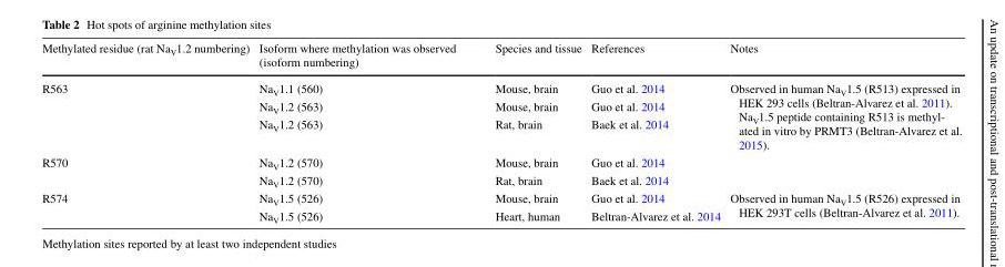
<table><thead><tr><td>Methylated residue (rat Na<sub>V</sub>1.2 numbering)</td><td>Isoform where methylation was observed (isoform numbering)</td><td>Species and tissue</td><td>References</td><td>Notes</td></tr></thead><tbody><tr><td rowspan="3">R563</td><td>Na<sub>V</sub>1.1 (560)</td><td>Mouse, brain</td><td>Guo et al. 2014</td><td rowspan="3">Observed in human NaV1.5 (R513) expressed in HEK 293 cells (Beltran-Alvarez et al. 2011). NaV1.5 peptide containing R513 is methyl- ated in vitro by PRMT3 (Beltran-Alvarez et al. 2015).</td></tr><tr><td>Na<sub>V</sub>1.2 (563)</td><td>Mouse, brain</td><td>Guo et al. 2014</td></tr><tr><td>Na<sub>V</sub>1.2 (563)</td><td>Rat, brain</td><td>Baek et al. 2014</td></tr><tr><td rowspan="2">R570</td><td>Na<sub>V</sub>1.2 (570)</td><td>Mouse, brain</td><td>Guo et al. 2014</td><td rowspan="2"></td></tr><tr><td>Na<sub>V</sub>1.2 (570)</td><td>Rat, brain</td><td>Baek et al. 2014</td></tr><tr><td rowspan="2">R574</td><td>Na<sub>V</sub>1.5 (526)</td><td>Mouse, brain</td><td>Guo et al. 2014</td><td rowspan="2">Observed in human Na<sub>V</sub>1.5 (R526) expressed in HEK 293T cells (Beltran-Alvarez et al. 2011).</td></tr><tr><td>Na<sub>V</sub>1.5 (526)</td><td>Heart, human</td><td>Beltran-Alvarez et al. 2014</td></tr></tbody></table>